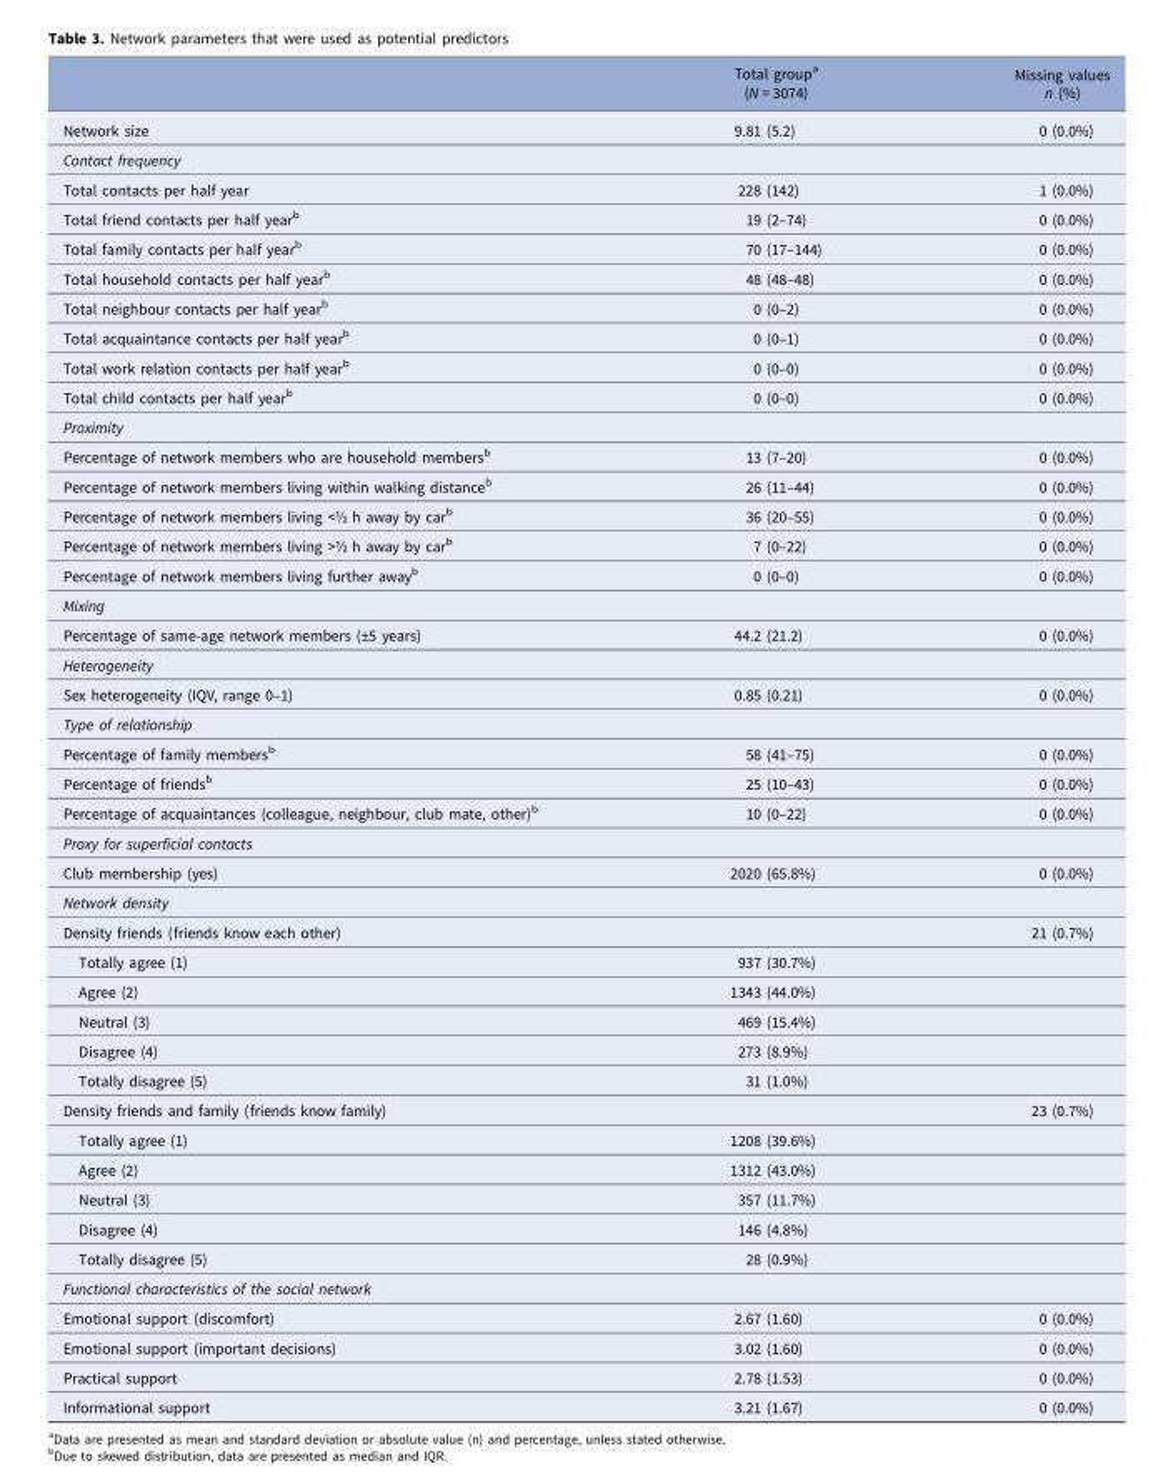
<table><thead><tr><td></td><td>Total group<sup>a</sup> (N = 3074)</td><td>Missing values n (%)</td></tr></thead><tbody><tr><td>Network size</td><td>9.81 (5.2)</td><td>0 (0.0%)</td></tr><tr><td colspan="3">Contact frequency</td></tr><tr><td>Total contacts per half year</td><td>228 (142)</td><td>1 (0.0%)</td></tr><tr><td>Total friend contacts per half year<sup>b</sup></td><td>19 (2–74)</td><td>0 (0.0%)</td></tr><tr><td>Total family contacts per half year<sup>b</sup></td><td>70 (17–144)</td><td>0 (0.0%)</td></tr><tr><td>Total household contacts per half year<sup>b</sup></td><td>48 (48–48)</td><td>0 (0.0%)</td></tr><tr><td>Total neighbour contacts per half year<sup>b</sup></td><td>0 (0–2)</td><td>0 (0.0%)</td></tr><tr><td>Total acquaintance contacts per half year<sup>b</sup></td><td>0 (0–1)</td><td>0 (0.0%)</td></tr><tr><td>Total work relation contacts per half year<sup>b</sup></td><td>0 (0–0)</td><td>0 (0.0%)</td></tr><tr><td>Total child contacts per half year<sup>b</sup></td><td>0 (0–0)</td><td>0 (0.0%)</td></tr><tr><td colspan="3">Proximity</td></tr><tr><td>Percentage of network members who are household members<sup>b</sup></td><td>13 (7–20)</td><td>0 (0.0%)</td></tr><tr><td>Percentage of network members living within walking distance<sup>b</sup></td><td>26 (11–44)</td><td>0 (0.0%)</td></tr><tr><td>Percentage of network members living &lt;½ h away by car<sup>b</sup></td><td>36 (20–55)</td><td>0 (0.0%)</td></tr><tr><td>Percentage of network members living &gt;½ h away by car<sup>b</sup></td><td>7 (0–22)</td><td>0 (0.0%)</td></tr><tr><td>Percentage of network members living further away<sup>b</sup></td><td>0 (0–0)</td><td>0 (0.0%)</td></tr><tr><td colspan="3">Mixing</td></tr><tr><td>Percentage of same-age network members (±5 years)</td><td>44.2 (21.2)</td><td>0 (0.0%)</td></tr><tr><td colspan="3">Heterogeneity</td></tr><tr><td>Sex heterogeneity (IQV, range 0–1)</td><td>0.85 (0.21)</td><td>0 (0.0%)</td></tr><tr><td colspan="3">Type of relationship</td></tr><tr><td>Percentage of family members<sup>b</sup></td><td>58 (41–75)</td><td>0 (0.0%)</td></tr><tr><td>Percentage of friends<sup>b</sup></td><td>25 (10–43)</td><td>0 (0.0%)</td></tr><tr><td>Percentage of acquaintances (colleague, neighbour, club mate, other)<sup>b</sup></td><td>10 (0–22)</td><td>0 (0.0%)</td></tr><tr><td colspan="3">Proxy for superficial contacts</td></tr><tr><td>Club membership (yes)</td><td>2020 (65.8%)</td><td>0 (0.0%)</td></tr><tr><td colspan="3">Network density</td></tr><tr><td>Density friends (friends know each other)</td><td></td><td>21 (0.7%)</td></tr><tr><td>Totally agree (1)</td><td>937 (30.7%)</td><td></td></tr><tr><td>Agree (2)</td><td>1343 (44.0%)</td><td></td></tr><tr><td>Neutral (3)</td><td>469 (15.4%)</td><td></td></tr><tr><td>Disagree (4)</td><td>273 (8.9%)</td><td></td></tr><tr><td>Totally disagree (5)</td><td>31 (1.0%)</td><td></td></tr><tr><td>Density friends and family (friends know family)</td><td></td><td>23 (0.7%)</td></tr><tr><td>Totally agree (1)</td><td>1208 (39.6%)</td><td></td></tr><tr><td>Agree (2)</td><td>1312 (43.0%)</td><td></td></tr><tr><td>Neutral (3)</td><td>357 (11.7%)</td><td></td></tr><tr><td>Disagree (4)</td><td>146 (4.8%)</td><td></td></tr><tr><td>Totally disagree (5)</td><td>28 (0.9%)</td><td></td></tr><tr><td colspan="3">Functional characteristics of the social network</td></tr><tr><td>Emotional support (discomfort)</td><td>2.67 (1.60)</td><td>0 (0.0%)</td></tr><tr><td>Emotional support (important decisions)</td><td>3.02 (1.60)</td><td>0 (0.0%)</td></tr><tr><td>Practical support</td><td>2.78 (1.53)</td><td>0 (0.0%)</td></tr><tr><td>Informational support</td><td>3.21 (1.67)</td><td>0 (0.0%)</td></tr></tbody></table>